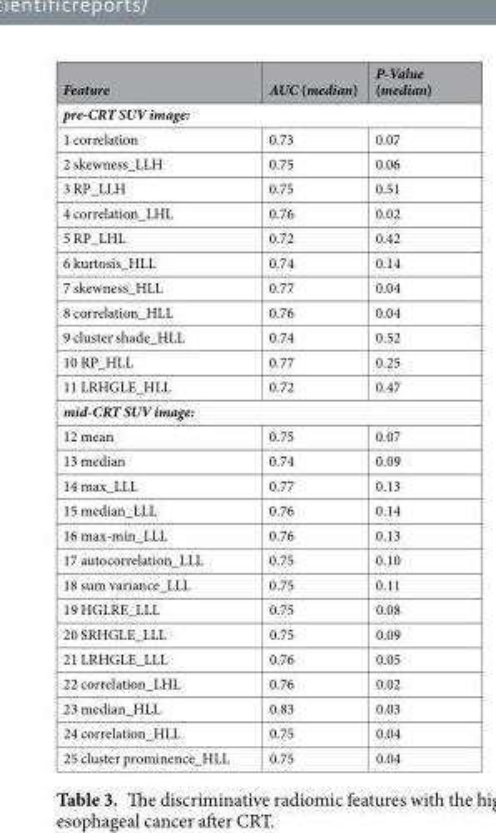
<table><thead><tr><td>Feature</td><td>AUC (median)</td><td>P-Value (median)</td></tr></thead><tbody><tr><td colspan="3">pre-CRT SUV image:</td></tr><tr><td>1 correlation</td><td>0.73</td><td>0.07</td></tr><tr><td>2 skewness_LLH</td><td>0.75</td><td>0.06</td></tr><tr><td>3 RP_LLH</td><td>0.75</td><td>0.51</td></tr><tr><td>4 correlation_LHL</td><td>0.76</td><td>0.02</td></tr><tr><td>5 RP_LHL</td><td>0.72</td><td>0.42</td></tr><tr><td>6 kurtosis_HLL</td><td>0.74</td><td>0.14</td></tr><tr><td>7 skewness_HLL</td><td>0.77</td><td>0.04</td></tr><tr><td>8 correlation_HLL</td><td>0.76</td><td>0.04</td></tr><tr><td>9 cluster shade_HLL</td><td>0.74</td><td>0.52</td></tr><tr><td>10 RP_HLL</td><td>0.77</td><td>0.25</td></tr><tr><td>11 LRHGLE_HLL</td><td>0.72</td><td>0.47</td></tr><tr><td colspan="3">mid-CRT SUV image:</td></tr><tr><td>12 mean</td><td>0.75</td><td>0.07</td></tr><tr><td>13 median</td><td>0.74</td><td>0.09</td></tr><tr><td>14 max_LLL</td><td>0.77</td><td>0.13</td></tr><tr><td>15 median_LLL</td><td>0.76</td><td>0.14</td></tr><tr><td>16 max-min_LLL</td><td>0.76</td><td>0.13</td></tr><tr><td>17 autocorrelation_LLL</td><td>0.75</td><td>0.10</td></tr><tr><td>18 sum variance_LLL</td><td>0.75</td><td>0.11</td></tr><tr><td>19 HGLRE_LLL</td><td>0.75</td><td>0.08</td></tr><tr><td>20 SRHGLE_LLL</td><td>0.75</td><td>0.09</td></tr><tr><td>21 LRHGLE_LLL</td><td>0.76</td><td>0.05</td></tr><tr><td>22 correlation_LHL</td><td>0.76</td><td>0.02</td></tr><tr><td>23 median_HLL</td><td>0.83</td><td>0.03</td></tr><tr><td>24 correlation_HLL</td><td>0.75</td><td>0.04</td></tr><tr><td>25 cluster prominence_HLL</td><td>0.75</td><td>0.04</td></tr></tbody></table>